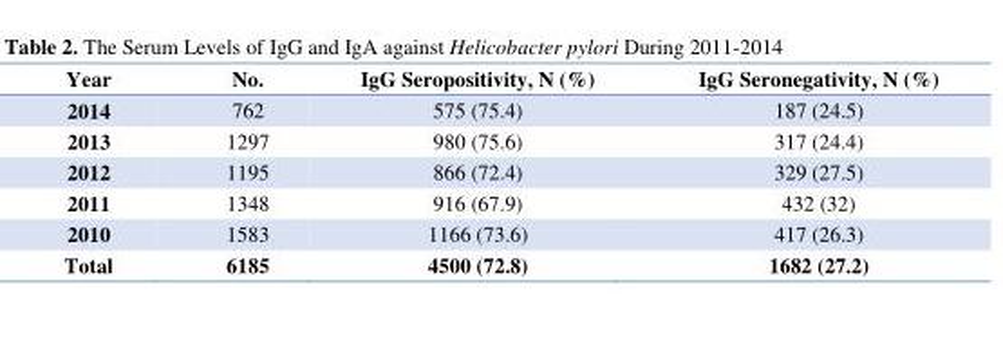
<table><thead><tr><td>Year</td><td>No.</td><td>IgG Seropositivity, N (%)</td><td>IgG Seronegativity, N (%)</td></tr></thead><tbody><tr><td>2014</td><td>762</td><td>575 (75.4)</td><td>187 (24.5)</td></tr><tr><td>2013</td><td>1297</td><td>980 (75.6)</td><td>317 (24.4)</td></tr><tr><td>2012</td><td>1195</td><td>866 (72.4)</td><td>329 (27.5)</td></tr><tr><td>2011</td><td>1348</td><td>916 (67.9)</td><td>432 (32)</td></tr><tr><td>2010</td><td>1583</td><td>1166 (73.6)</td><td>417 (26.3)</td></tr><tr><td>Total</td><td>6185</td><td>4500 (72.8)</td><td>1682 (27.2)</td></tr></tbody></table>